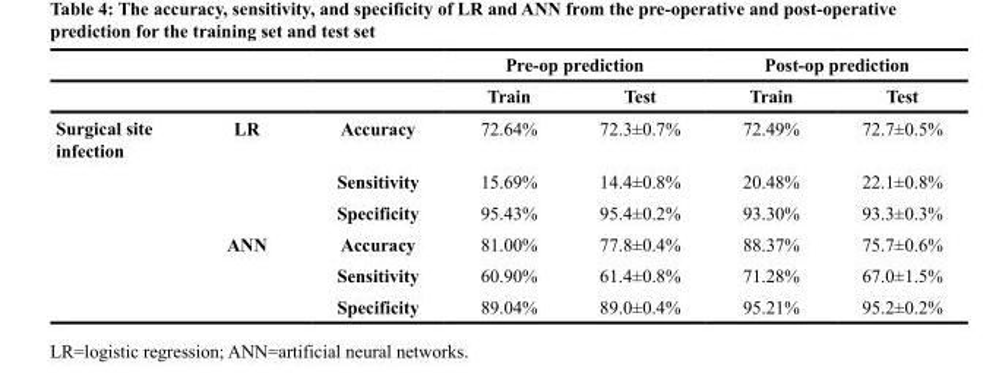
<table><thead><tr><td rowspan="2"></td><td rowspan="2"></td><td rowspan="2"></td><td colspan="2">Pre-op prediction</td><td colspan="2">Post-op prediction</td></tr><tr><td>Train</td><td>Test</td><td>Train</td><td>Test</td></tr></thead><tbody><tr><td rowspan="6">Surgical site infection</td><td>LR</td><td>Accuracy</td><td>72.64%</td><td>72.3±0.7%</td><td>72.49%</td><td>72.7±0.5%</td></tr><tr><td></td><td>Sensitivity</td><td>15.69%</td><td>14.4±0.8%</td><td>20.48%</td><td>22.1±0.8%</td></tr><tr><td></td><td>Specificity</td><td>95.43%</td><td>95.4±0.2%</td><td>93.30%</td><td>93.3±0.3%</td></tr><tr><td>ANN</td><td>Accuracy</td><td>81.00%</td><td>77.8±0.4%</td><td>88.37%</td><td>75.7±0.6%</td></tr><tr><td></td><td>Sensitivity</td><td>60.90%</td><td>61.4±0.8%</td><td>71.28%</td><td>67.0±1.5%</td></tr><tr><td></td><td>Specificity</td><td>89.04%</td><td>89.0±0.4%</td><td>95.21%</td><td>95.2±0.2%</td></tr></tbody></table>